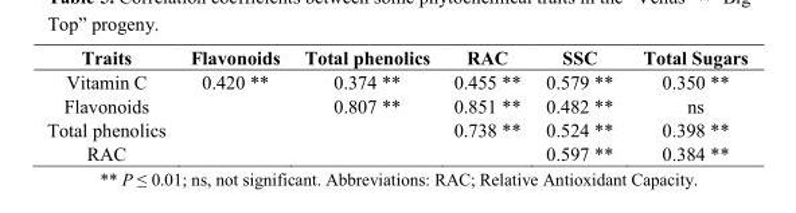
<table><thead><tr><td>Traits</td><td>Flavonoids</td><td>Total phenolics</td><td>RAC</td><td>SSC</td><td>Total Sugars</td></tr></thead><tbody><tr><td>Vitamin C</td><td>0.420 **</td><td>0.374 **</td><td>0.455 **</td><td>0.579 **</td><td>0.350 **</td></tr><tr><td>Flavonoids</td><td></td><td>0.807 **</td><td>0.851 **</td><td>0.482 **</td><td>ns</td></tr><tr><td>Total phenolics</td><td></td><td></td><td>0.738 **</td><td>0.524 **</td><td>0.398 **</td></tr><tr><td>RAC</td><td></td><td></td><td></td><td>0.597 **</td><td>0.384 **</td></tr></tbody></table>